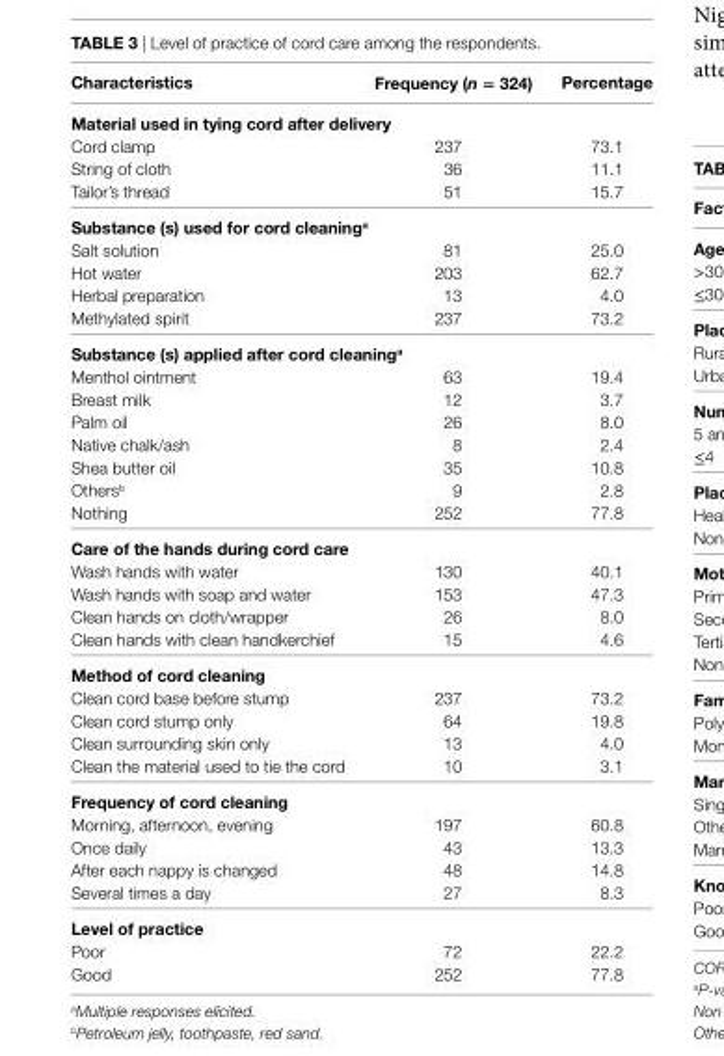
<table><thead><tr><td>characteristics</td><td>Frequency (n = 324)</td><td>Percentage</td></tr></thead><tbody><tr><td colspan="3">Material used in tying cord after delivery</td></tr><tr><td>Cord clamp</td><td>237</td><td>73.1</td></tr><tr><td>String of cloth</td><td>36</td><td>11.1</td></tr><tr><td>Tailor’s thread</td><td>51</td><td>15.7</td></tr><tr><td colspan="3">substance (s) used for cord cleaning<sup>a</sup></td></tr><tr><td>Salt solution</td><td>81</td><td>25.0</td></tr><tr><td>Hot water</td><td>203</td><td>62.7</td></tr><tr><td>Herbal preparation</td><td>13</td><td>4.0</td></tr><tr><td>Methylated spirit</td><td>237</td><td>73.2</td></tr><tr><td colspan="3">substance (s) applied after cord cleaning<sup>a</sup></td></tr><tr><td>Menthol ointment</td><td>63</td><td>19.4</td></tr><tr><td>Breast milk</td><td>12</td><td>3.7</td></tr><tr><td>Palm oil</td><td>26</td><td>8.0</td></tr><tr><td>Native chalk/ash</td><td>8</td><td>2.4</td></tr><tr><td>Shea butter oil</td><td>35</td><td>10.8</td></tr><tr><td>Others<sup>b</sup></td><td>9</td><td>2.8</td></tr><tr><td>Nothing</td><td>252</td><td>77.8</td></tr><tr><td colspan="3">care of the hands during cord care</td></tr><tr><td>Wash hands with water</td><td>130</td><td>40.1</td></tr><tr><td>Wash hands with soap and water</td><td>153</td><td>47.3</td></tr><tr><td>Clean hands on cloth/wrapper</td><td>26</td><td>8.0</td></tr><tr><td>Clean hands with clean handkerchief</td><td>15</td><td>4.6</td></tr><tr><td colspan="3">Method of cord cleaning</td></tr><tr><td>Clean cord base before stump</td><td>237</td><td>73.2</td></tr><tr><td>Clean cord stump only</td><td>64</td><td>19.8</td></tr><tr><td>Clean surrounding skin only</td><td>13</td><td>4.0</td></tr><tr><td>Clean the material used to tie the cord</td><td>10</td><td>3.1</td></tr><tr><td colspan="3">Frequency of cord cleaning</td></tr><tr><td>Morning, afternoon, evening</td><td>197</td><td>60.8</td></tr><tr><td>Once daily</td><td>43</td><td>13.3</td></tr><tr><td>After each nappy is changed</td><td>48</td><td>14.8</td></tr><tr><td>Several times a day</td><td>27</td><td>8.3</td></tr><tr><td colspan="3">level of practice</td></tr><tr><td>Poor</td><td>72</td><td>22.2</td></tr><tr><td>Good</td><td>252</td><td>77.8</td></tr></tbody></table>